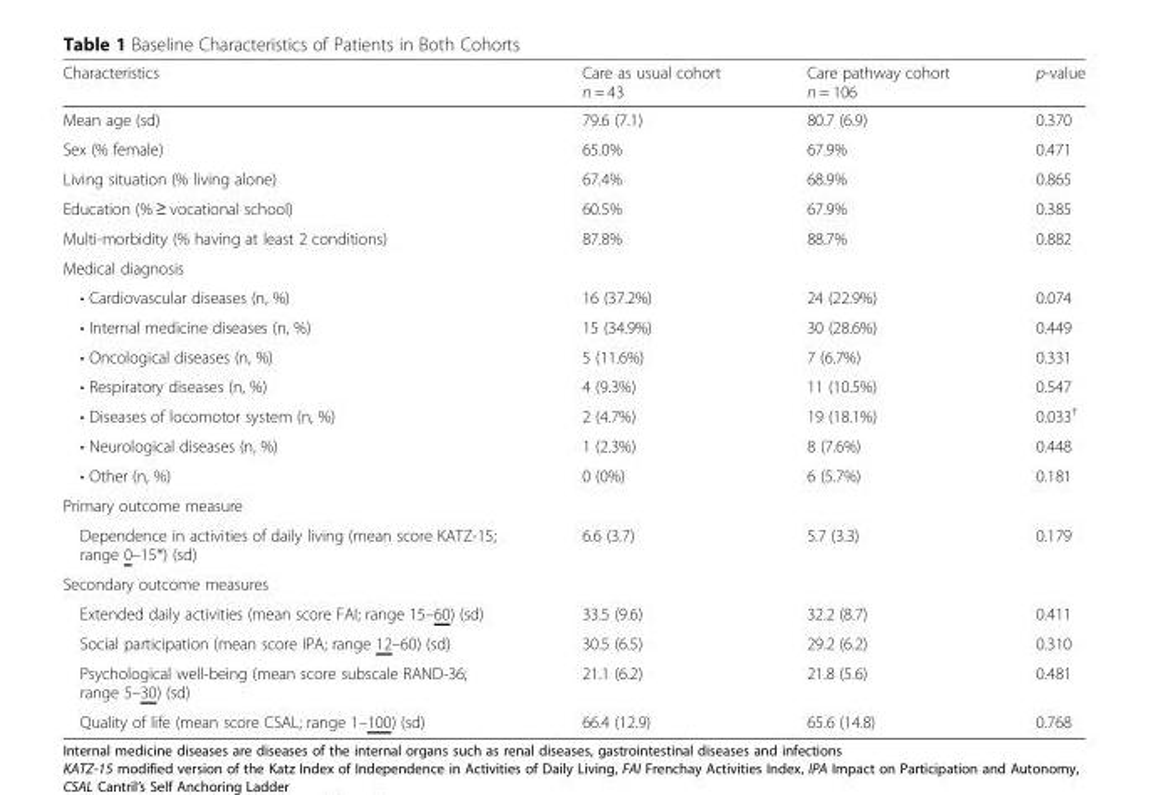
<table><thead><tr><td>Characteristics</td><td>Care as usual cohort n = 43</td><td>Care pathway cohort n = 106</td><td>p-value</td></tr></thead><tbody><tr><td>Mean age (sd)</td><td>79.6 (7.1)</td><td>80.7 (6.9)</td><td>0.370</td></tr><tr><td>Sex (% female)</td><td>65.0%</td><td>67.9%</td><td>0.471</td></tr><tr><td>Living situation (% living alone)</td><td>67.4%</td><td>68.9%</td><td>0.865</td></tr><tr><td>Education (% ≥ vocational school)</td><td>60.5%</td><td>67.9%</td><td>0.385</td></tr><tr><td>Multi-morbidity (% having at least 2 conditions)</td><td>87.8%</td><td>88.7%</td><td>0.882</td></tr><tr><td colspan="4">Medical diagnosis</td></tr><tr><td>• Cardiovascular diseases (n, %)</td><td>16 (37.2%)</td><td>24 (22.9%)</td><td>0.074</td></tr><tr><td>• Internal medicine diseases (n, %)</td><td>15 (34.9%)</td><td>30 (28.6%)</td><td>0.449</td></tr><tr><td>• Oncological diseases (n, %)</td><td>5 (11.6%)</td><td>7 (6.7%)</td><td>0.331</td></tr><tr><td>• Respiratory diseases (n, %)</td><td>4 (9.3%)</td><td>11 (10.5%)</td><td>0.547</td></tr><tr><td>• Diseases of locomotor system (n, %)</td><td>2 (4.7%)</td><td>19 (18.1%)</td><td>0.033<sup>†</sup></td></tr><tr><td>• Neurological diseases (n, %)</td><td>1 (2.3%)</td><td>8 (7.6%)</td><td>0.448</td></tr><tr><td>• Other (n, %)</td><td>0 (0%)</td><td>6 (5.7%)</td><td>0.181</td></tr><tr><td colspan="4">Primary outcome measure</td></tr><tr><td>Dependence in activities of daily living (mean score KATZ-15; range 0–15*) (sd)</td><td>6.6 (3.7)</td><td>5.7 (3.3)</td><td>0.179</td></tr><tr><td colspan="4">Secondary outcome measures</td></tr><tr><td>Extended daily activities (mean score FAI; range 15–60) (sd)</td><td>33.5 (9.6)</td><td>32.2 (8.7)</td><td>0.411</td></tr><tr><td>Social participation (mean score IPA; range 12–60) (sd)</td><td>30.5 (6.5)</td><td>29.2 (6.2)</td><td>0.310</td></tr><tr><td>Psychological well-being (mean score subscale RAND-36; range 5–30) (sd)</td><td>21.1 (6.2)</td><td>21.8 (5.6)</td><td>0.481</td></tr><tr><td>Quality of life (mean score CSAL; range 1–100) (sd)</td><td>66.4 (12.9)</td><td>65.6 (14.8)</td><td>0.768</td></tr></tbody></table>